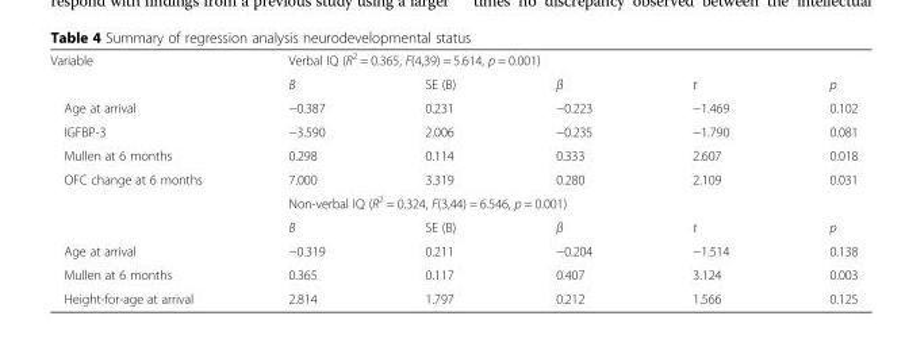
<table><tbody><tr><td rowspan="2">Variable</td><td colspan="5">Verbal IQ (R<sup>2</sup> = 0.365, F(4,39) = 5.614, p = 0.001)</td></tr><tr><td>B</td><td>SE (B)</td><td>β</td><td>t</td><td>p</td></tr><tr><td>Age at arrival</td><td>−0.387</td><td>0.231</td><td>−0.223</td><td>−1.469</td><td>0.102</td></tr><tr><td>IGFBP-3</td><td>−3.590</td><td>2.006</td><td>−0.235</td><td>−1.790</td><td>0.081</td></tr><tr><td>Mullen at 6 months</td><td>0.298</td><td>0.114</td><td>0.333</td><td>2.607</td><td>0.018</td></tr><tr><td rowspan="3">OFC change at 6 months</td><td>7.000</td><td>3.319</td><td>0.280</td><td>2.109</td><td>0.031</td></tr><tr><td colspan="5">Non-verbal IQ (R<sup>2</sup> = 0.324, F(3,44) = 6.546, p = 0.001)</td></tr><tr><td>B</td><td>SE (B)</td><td>β</td><td>t</td><td>p</td></tr><tr><td>Age at arrival</td><td>−0.319</td><td>0.211</td><td>−0.204</td><td>−1.514</td><td>0.138</td></tr><tr><td>Mullen at 6 months</td><td>0.365</td><td>0.117</td><td>0.407</td><td>3.124</td><td>0.003</td></tr><tr><td>Height-for-age at arrival</td><td>2.814</td><td>1.797</td><td>0.212</td><td>1.566</td><td>0.125</td></tr></tbody></table>